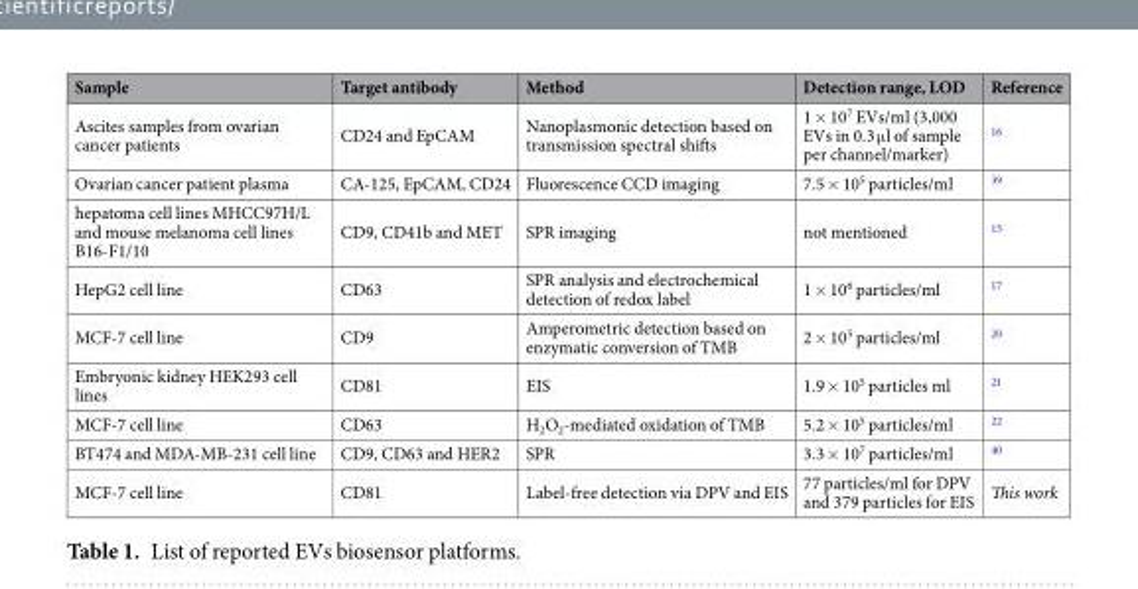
<table><thead><tr><td>Sample</td><td>Target antibody</td><td>Method</td><td>Detection range, LOD</td><td>Reference</td></tr></thead><tbody><tr><td>Ascites samples from ovarian cancer patients</td><td>CD24 and EpCAM</td><td>Nanoplasmonic detection based on transmission spectral shifts</td><td>1 × 10<sup>7</sup> EVs/ml (3,000 EVs in 0.3 μl of sample per channel/marker)</td><td><sup>16</sup></td></tr><tr><td>Ovarian cancer patient plasma</td><td>CA-125, EpCAM, CD24</td><td>Fluorescence CCD imaging</td><td>7.5 × 10<sup>5</sup> particles/ml</td><td><sup>39</sup></td></tr><tr><td>hepatoma cell lines MHCC97H/L and mouse melanoma cell lines B16-F1/10</td><td>CD9, CD41b and MET</td><td>SPR imaging</td><td>not mentioned</td><td><sup>15</sup></td></tr><tr><td>HepG2 cell line</td><td>CD63</td><td>SPR analysis and electrochemical detection of redox label</td><td>1 × 10<sup>6</sup> particles/ml</td><td><sup>17</sup></td></tr><tr><td>MCF-7 cell line</td><td>CD9</td><td>Amperometric detection based on enzymatic conversion of TMB</td><td>2 × 10<sup>5</sup> particles/ml</td><td><sup>20</sup></td></tr><tr><td>Embryonic kidney HEK293 cell lines</td><td>CD81</td><td>EIS</td><td>1.9 × 10<sup>5</sup> particles ml</td><td><sup>21</sup></td></tr><tr><td>MCF-7 cell line</td><td>CD63</td><td>H<sub>2</sub>O<sub>2</sub>-mediated oxidation of TMB</td><td>5.2 × 10<sup>5</sup> particles/ml</td><td><sup>22</sup></td></tr><tr><td>BT474 and MDA-MB-231 cell line</td><td>CD9, CD63 and HER2</td><td>SPR</td><td>3.3 × 10<sup>7</sup> particles/ml</td><td><sup>40</sup></td></tr><tr><td>MCF-7 cell line</td><td>CD81</td><td>Label-free detection via DPV and EIS</td><td>77 particles/ml for DPV and 379 particles for EIS</td><td>This work</td></tr></tbody></table>